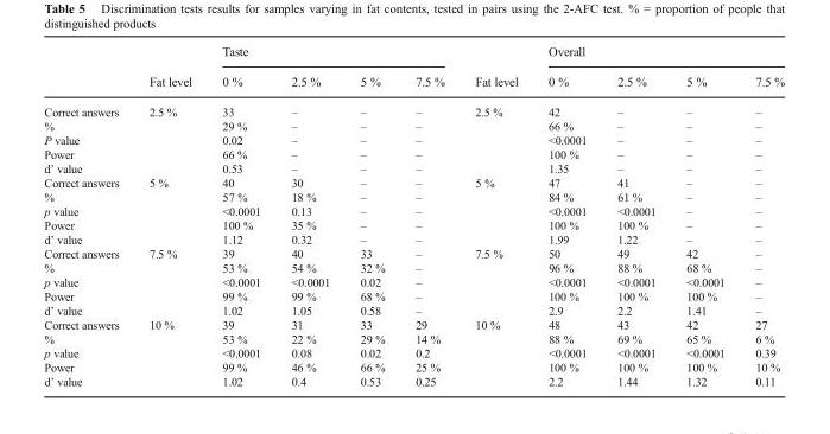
<table><thead><tr><td rowspan="2"></td><td rowspan="2">Fat level</td><td colspan="4">Taste</td><td rowspan="2">Fat level</td><td colspan="4">Overall</td></tr><tr><td>0 %</td><td>2.5 %</td><td>5 %</td><td>7.5 %</td><td>0 %</td><td>2.5 %</td><td>5 %</td><td>7.5 %</td></tr></thead><tbody><tr><td>Correct answers</td><td rowspan="5">2.5 %</td><td>33</td><td>–</td><td>–</td><td>–</td><td rowspan="5">2.5 %</td><td>42</td><td>–</td><td>–</td><td>–</td></tr><tr><td>%</td><td>29 %</td><td>–</td><td>–</td><td>–</td><td>66 %</td><td>–</td><td>–</td><td>–</td></tr><tr><td>P value</td><td>0.02</td><td>–</td><td>–</td><td>–</td><td>&lt;0.0001</td><td>–</td><td>–</td><td>–</td></tr><tr><td>Power</td><td>66 %</td><td>–</td><td>–</td><td>–</td><td>100 %</td><td>–</td><td>–</td><td>–</td></tr><tr><td>d’ value</td><td>0.53</td><td>–</td><td>–</td><td>–</td><td>1.35</td><td>–</td><td>–</td><td>–</td></tr><tr><td>Correct answers</td><td rowspan="5">5 %</td><td>40</td><td>30</td><td>–</td><td>–</td><td rowspan="5">5 %</td><td>47</td><td>41</td><td>–</td><td>–</td></tr><tr><td>%</td><td>57 %</td><td>18 %</td><td>–</td><td>–</td><td>84 %</td><td>61 %</td><td>–</td><td>–</td></tr><tr><td>p value</td><td>&lt;0.0001</td><td>0.13</td><td>–</td><td>–</td><td>&lt;0.0001</td><td>&lt;0.0001</td><td>–</td><td>–</td></tr><tr><td>Power</td><td>100 %</td><td>35 %</td><td>–</td><td>–</td><td>100 %</td><td>100 %</td><td>–</td><td>–</td></tr><tr><td>d’ value</td><td>1.12</td><td>0.32</td><td>–</td><td>–</td><td>1.99</td><td>1.22</td><td>–</td><td>–</td></tr><tr><td>Correct answers</td><td rowspan="5">7.5 %</td><td>39</td><td>40</td><td>33</td><td>–</td><td rowspan="5">7.5 %</td><td>50</td><td>49</td><td>42</td><td>–</td></tr><tr><td>%</td><td>53 %</td><td>54 %</td><td>32 %</td><td>–</td><td>96 %</td><td>88 %</td><td>68 %</td><td>–</td></tr><tr><td>p value</td><td>&lt;0.0001</td><td>&lt;0.0001</td><td>0.02</td><td>–</td><td>&lt;0.0001</td><td>&lt;0.0001</td><td>&lt;0.0001</td><td>–</td></tr><tr><td>Power</td><td>99 %</td><td>99 %</td><td>68 %</td><td>–</td><td>100 %</td><td>100 %</td><td>100 %</td><td>–</td></tr><tr><td>d’ value</td><td>1.02</td><td>1.05</td><td>0.58</td><td>–</td><td>2.9</td><td>2.2</td><td>1.41</td><td>–</td></tr><tr><td>Correct answers</td><td rowspan="5">10 %</td><td>39</td><td>31</td><td>33</td><td>29</td><td rowspan="5">10 %</td><td>48</td><td>43</td><td>42</td><td>27</td></tr><tr><td>%</td><td>53 %</td><td>22 %</td><td>29 %</td><td>14 %</td><td>88 %</td><td>69 %</td><td>65 %</td><td>6 %</td></tr><tr><td>p value</td><td>&lt;0.0001</td><td>0.08</td><td>0.02</td><td>0.2</td><td>&lt;0.0001</td><td>&lt;0.0001</td><td>&lt;0.0001</td><td>0.39</td></tr><tr><td>Power</td><td>99 %</td><td>46 %</td><td>66 %</td><td>25 %</td><td>100 %</td><td>100 %</td><td>100 %</td><td>10 %</td></tr><tr><td>d’ value</td><td>1.02</td><td>0.4</td><td>0.53</td><td>0.25</td><td>2.2</td><td>1.44</td><td>1.32</td><td>0.11</td></tr></tbody></table>